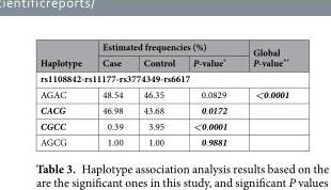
<table><thead><tr><td rowspan="2">Haplotype</td><td colspan="3">Estimated frequencies (%)</td><td rowspan="2">Global P-value**</td></tr><tr><td>Case</td><td>Control</td><td>P-value*</td></tr></thead><tbody><tr><td colspan="5">rs1108842-rs11177-rs3774349-rs6617</td></tr><tr><td>AGAC</td><td>48.54</td><td>46.35</td><td>0.0829</td><td>&lt;0.0001</td></tr><tr><td>CACG</td><td>46.98</td><td>43.68</td><td>0.0172</td><td></td></tr><tr><td>CGCC</td><td>0.39</td><td>3.95</td><td>&lt;0.0001</td><td></td></tr><tr><td>AGCG</td><td>1.00</td><td>1.00</td><td>0.9881</td><td></td></tr></tbody></table>